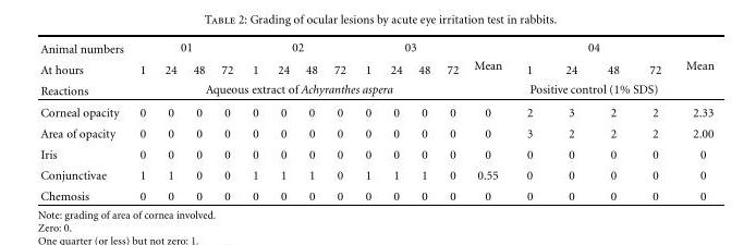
<table><thead><tr><td rowspan="3">Animal numbers At hours Reactions</td><td colspan="4">01</td><td colspan="4">02</td><td colspan="4">03</td><td rowspan="3">Mean</td><td colspan="4">04</td><td rowspan="3">Mean</td></tr><tr><td>1</td><td>24</td><td>48</td><td>72</td><td>1</td><td>24</td><td>48</td><td>72</td><td>1</td><td>24</td><td>48</td><td>72</td><td>1</td><td>24</td><td>48</td><td>72</td></tr><tr><td colspan="12">Aqueous extract of Achyranthes aspera</td><td colspan="4">Positive control (1% SDS)</td></tr></thead><tbody><tr><td>Corneal opacity</td><td>0</td><td>0</td><td>0</td><td>0</td><td>0</td><td>0</td><td>0</td><td>0</td><td>0</td><td>0</td><td>0</td><td>0</td><td>0</td><td>2</td><td>3</td><td>2</td><td>2</td><td>2.33</td></tr><tr><td>Area of opacity</td><td>0</td><td>0</td><td>0</td><td>0</td><td>0</td><td>0</td><td>0</td><td>0</td><td>0</td><td>0</td><td>0</td><td>0</td><td>0</td><td>3</td><td>2</td><td>2</td><td>2</td><td>2.00</td></tr><tr><td>Iris</td><td>0</td><td>0</td><td>0</td><td>0</td><td>0</td><td>0</td><td>0</td><td>0</td><td>0</td><td>0</td><td>0</td><td>0</td><td>0</td><td>0</td><td>0</td><td>0</td><td>0</td><td>0</td></tr><tr><td>Conjunctivae</td><td>1</td><td>1</td><td>0</td><td>0</td><td>1</td><td>1</td><td>1</td><td>0</td><td>1</td><td>1</td><td>1</td><td>0</td><td>0.55</td><td>0</td><td>0</td><td>0</td><td>0</td><td>0</td></tr><tr><td>Chemosis</td><td>0</td><td>0</td><td>0</td><td>0</td><td>0</td><td>0</td><td>0</td><td>0</td><td>0</td><td>0</td><td>0</td><td>0</td><td>0</td><td>0</td><td>0</td><td>0</td><td>0</td><td>0</td></tr></tbody></table>